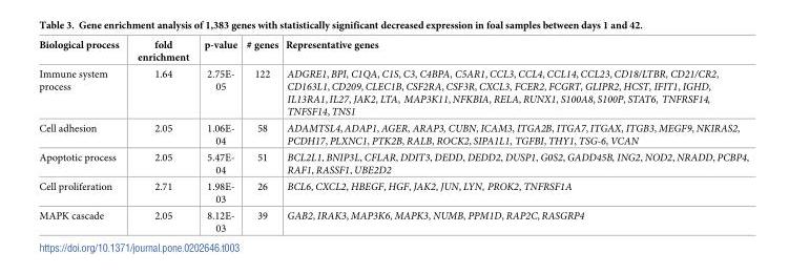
<table><thead><tr><td>Biological process</td><td>fold enrichment</td><td>p-value</td><td># genes</td><td>Representative genes</td></tr></thead><tbody><tr><td>Immune system process</td><td>1.64</td><td>2.75E- 05</td><td>122</td><td>ADGRE1, BPI, C1QA, C1S, C3, C4BPA, C5AR1, CCL3, CCL4, CCL14, CCL23, CD18/LTBR, CD21/CR2, CD163L1, CD209, CLEC1B, CSF2RA, CSF3R, CXCL3, FCER2, FCGRT, GLIPR2, HCST, IFIT1, IGHD, IL13RA1, IL27, JAK2, LTA, MAP3K11, NFKBIA, RELA, RUNX1, S100A8, S100P, STAT6, TNFRSF14, TNFSF14, TNS1</td></tr><tr><td>Cell adhesion</td><td>2.05</td><td>1.06E- 04</td><td>58</td><td>ADAMTSL4, ADAP1, AGER, ARAP3, CUBN, ICAM3, ITGA2B, ITGA7, ITGAX, ITGB3, MEGF9, NKIRAS2, PCDH17, PLXNC1, PTK2B, RALB, ROCK2, SIPA1L1, TGFBI, THY1, TSG-6, VCAN</td></tr><tr><td>Apoptotic process</td><td>2.05</td><td>5.47E- 04</td><td>51</td><td>BCL2L1, BNIP3L, CFLAR, DDIT3, DEDD, DEDD2, DUSP1, G0S2, GADD45B, ING2, NOD2, NRADD, PCBP4, RAF1, RASSF1, UBE2D2</td></tr><tr><td>Cell proliferation</td><td>2.71</td><td>1.98E- 03</td><td>26</td><td>BCL6, CXCL2, HBEGF, HGF, JAK2, JUN, LYN, PROK2, TNFRSF1A</td></tr><tr><td>MAPK cascade</td><td>2.05</td><td>8.12E- 03</td><td>39</td><td>GAB2, IRAK3, MAP3K6, MAPK3, NUMB, PPM1D, RAP2C, RASGRP4</td></tr></tbody></table>